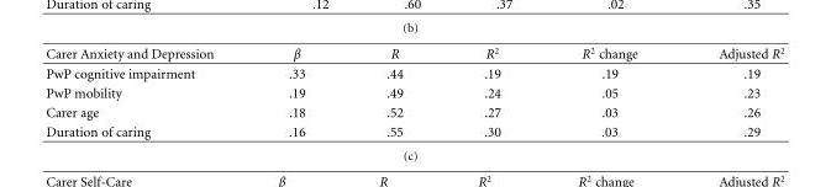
<table><thead><tr><td>Carer Anxiety and Depression</td><td>β</td><td>R</td><td>R<sup>2</sup></td><td>R<sup>2</sup> change</td><td>Adjusted R<sup>2</sup></td></tr></thead><tbody><tr><td>PwP cognitive impairment</td><td>.33</td><td>.44</td><td>.19</td><td>.19</td><td>.19</td></tr><tr><td>PwP mobility</td><td>.19</td><td>.49</td><td>.24</td><td>.05</td><td>.23</td></tr><tr><td>Carer age</td><td>.18</td><td>.52</td><td>.27</td><td>.03</td><td>.26</td></tr><tr><td>Duration of caring</td><td>.16</td><td>.55</td><td>.30</td><td>.03</td><td>.29</td></tr></tbody></table>